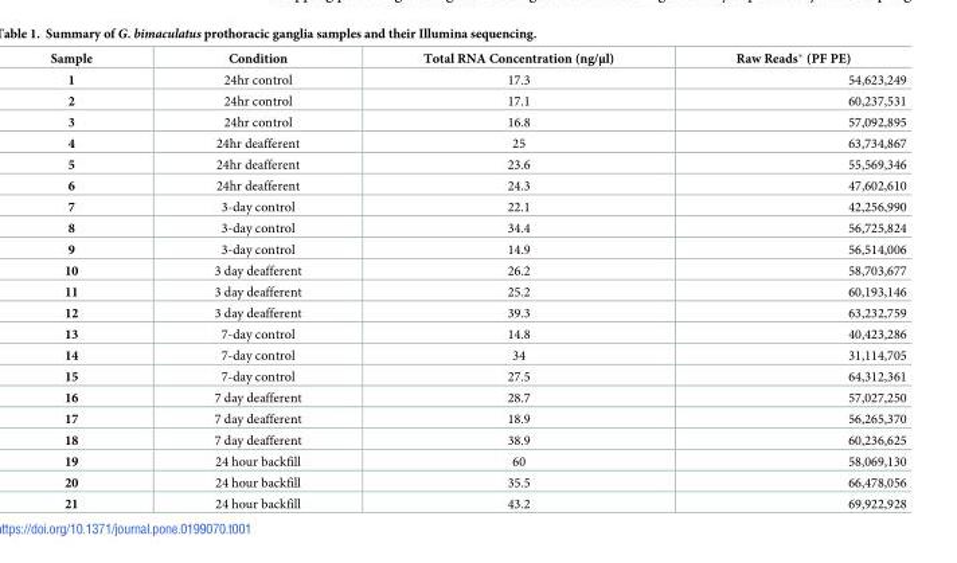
<table><thead><tr><td>Sample</td><td>Condition</td><td>Total RNA Concentration (ng/μl)</td><td>Raw Reads* (PF PE)</td></tr></thead><tbody><tr><td>1</td><td>24hr control</td><td>17.3</td><td>54,623,249</td></tr><tr><td>2</td><td>24hr control</td><td>17.1</td><td>60,237,531</td></tr><tr><td>3</td><td>24hr control</td><td>16.8</td><td>57,092,895</td></tr><tr><td>4</td><td>24hr deafferent</td><td>25</td><td>63,734,867</td></tr><tr><td>5</td><td>24hr deafferent</td><td>23.6</td><td>55,569,346</td></tr><tr><td>6</td><td>24hr deafferent</td><td>24.3</td><td>47,602,610</td></tr><tr><td>7</td><td>3-day control</td><td>22.1</td><td>42,256,990</td></tr><tr><td>8</td><td>3-day control</td><td>34.4</td><td>56,725,824</td></tr><tr><td>9</td><td>3-day control</td><td>14.9</td><td>56,514,006</td></tr><tr><td>10</td><td>3 day deafferent</td><td>26.2</td><td>58,703,677</td></tr><tr><td>11</td><td>3 day deafferent</td><td>25.2</td><td>60,193,146</td></tr><tr><td>12</td><td>3 day deafferent</td><td>39.3</td><td>63,232,759</td></tr><tr><td>13</td><td>7-day control</td><td>14.8</td><td>40,423,286</td></tr><tr><td>14</td><td>7-day control</td><td>34</td><td>31,114,705</td></tr><tr><td>15</td><td>7-day control</td><td>27.5</td><td>64,312,361</td></tr><tr><td>16</td><td>7 day deafferent</td><td>28.7</td><td>57,027,250</td></tr><tr><td>17</td><td>7 day deafferent</td><td>18.9</td><td>56,265,370</td></tr><tr><td>18</td><td>7 day deafferent</td><td>38.9</td><td>60,236,625</td></tr><tr><td>19</td><td>24 hour backfill</td><td>60</td><td>58,069,130</td></tr><tr><td>20</td><td>24 hour backfill</td><td>35.5</td><td>66,478,056</td></tr><tr><td>21</td><td>24 hour backfill</td><td>43.2</td><td>69,922,928</td></tr></tbody></table>